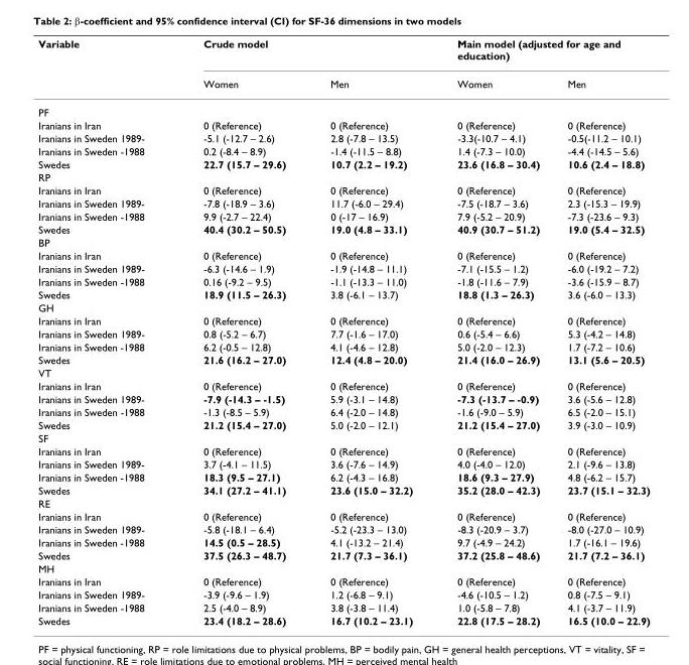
<table><thead><tr><td rowspan="2">Variable</td><td colspan="2">Crude model</td><td colspan="2">Main model (adjusted for age and education)</td></tr><tr><td>Women</td><td>Men</td><td>Women</td><td>Men</td></tr></thead><tbody><tr><td colspan="5">PF</td></tr><tr><td>Iranians in Iran</td><td>0 (Reference)</td><td>0 (Reference)</td><td>0 (Reference)</td><td>0 (Reference)</td></tr><tr><td>Iranians in Sweden 1989-</td><td>-5.1 (-12.7 – 2.6)</td><td>2.8 (-7.8 – 13.5)</td><td>-3.3(-10.7 – 4.1)</td><td>-0.5(-11.2 – 10.1)</td></tr><tr><td>Iranians in Sweden -1988</td><td>0.2 (-8.4 – 8.9)</td><td>-1.4 (-11.5 – 8.8)</td><td>1.4 (-7.3 – 10.0)</td><td>-4.4 (-14.5 – 5.6)</td></tr><tr><td>Swedes</td><td>22.7 (15.7 – 29.6)</td><td>10.7 (2.2 – 19.2)</td><td>23.6 (16.8 – 30.4)</td><td>10.6 (2.4 – 18.8)</td></tr><tr><td colspan="5">RP</td></tr><tr><td>Iranians in Iran</td><td>0 (Reference)</td><td>0 (Reference)</td><td>0 (Reference)</td><td>0 (Reference)</td></tr><tr><td>Iranians in Sweden 1989-</td><td>-7.8 (-18.9 – 3.6)</td><td>11.7 (-6.0 – 29.4)</td><td>-7.5 (-18.7 – 3.6)</td><td>2.3 (-15.3 – 19.9)</td></tr><tr><td>Iranians in Sweden -1988</td><td>9.9 (-2.7 – 22.4)</td><td>0 (-17 – 16.9)</td><td>7.9 (-5.2 – 20.9)</td><td>-7.3 (-23.6 – 9.3)</td></tr><tr><td>Swedes</td><td>40.4 (30.2 – 50.5)</td><td>19.0 (4.8 – 33.1)</td><td>40.9 (30.7 – 51.2)</td><td>19.0 (5.4 – 32.5)</td></tr><tr><td colspan="5">BP</td></tr><tr><td>Iranians in Iran</td><td>0 (Reference)</td><td>0 (Reference)</td><td>0 (Reference)</td><td>0 (Reference)</td></tr><tr><td>Iranians in Sweden 1989-</td><td>-6.3 (-14.6 – 1.9)</td><td>-1.9 (-14.8 – 11.1)</td><td>-7.1 (-15.5 – 1.2)</td><td>-6.0 (-19.2 – 7.2)</td></tr><tr><td>Iranians in Sweden -1988</td><td>0.16 (-9.2 – 9.5)</td><td>-1.1 (-13.3 – 11.0)</td><td>-1.8 (-11.6 – 7.9)</td><td>-3.6 (-15.9 – 8.7)</td></tr><tr><td>Swedes</td><td>18.9 (11.5 – 26.3)</td><td>3.8 (-6.1 – 13.7)</td><td>18.8 (1.3 – 26.3)</td><td>3.6 (-6.0 – 13.3)</td></tr><tr><td colspan="5">GH</td></tr><tr><td>Iranians in Iran</td><td>0 (Reference)</td><td>0 (Reference)</td><td>0 (Reference)</td><td>0 (Reference)</td></tr><tr><td>Iranians in Sweden 1989-</td><td>0.8 (-5.2 – 6.7)</td><td>7.7 (-1.6 – 17.0)</td><td>0.6 (-5.4 – 6.6)</td><td>5.3 (-4.2 – 14.8)</td></tr><tr><td>Iranians in Sweden -1988</td><td>6.2 (-0.5 – 12.8)</td><td>4.1 (-4.6 – 12.8)</td><td>5.0 (-2.0 – 12.3)</td><td>1.7 (-7.2 – 10.6)</td></tr><tr><td>Swedes</td><td>21.6 (16.2 – 27.0)</td><td>12.4 (4.8 – 20.0)</td><td>21.4 (16.0 – 26.9)</td><td>13.1 (5.6 – 20.5)</td></tr><tr><td colspan="5">VT</td></tr><tr><td>Iranians in Iran</td><td>0 (Reference)</td><td>0 (Reference)</td><td>0 (Reference)</td><td>0 (Reference)</td></tr><tr><td>Iranians in Sweden 1989-</td><td>-7.9 (-14.3 – -1.5)</td><td>5.9 (-3.1 – 14.8)</td><td>-7.3 (-13.7 – -0.9)</td><td>3.6 (-5.6 – 12.8)</td></tr><tr><td>Iranians in Sweden -1988</td><td>-1.3 (-8.5 – 5.9)</td><td>6.4 (-2.0 – 14.8)</td><td>-1.6 (-9.0 – 5.9)</td><td>6.5 (-2.0 – 15.1)</td></tr><tr><td>Swedes</td><td>21.2 (15.4 – 27.0)</td><td>5.0 (-2.0 – 12.1)</td><td>21.2 (15.4 – 27.0)</td><td>3.9 (-3.0 – 10.9)</td></tr><tr><td colspan="5">SF</td></tr><tr><td>Iranians in Iran</td><td>0 (Reference)</td><td>0 (Reference)</td><td>0 (Reference)</td><td>0 (Reference)</td></tr><tr><td>Iranians in Sweden 1989-</td><td>3.7 (-4.1 – 11.5)</td><td>3.6 (-7.6 – 14.9)</td><td>4.0 (-4.0 – 12.0)</td><td>2.1 (-9.6 – 13.8)</td></tr><tr><td>Iranians in Sweden -1988</td><td>18.3 (9.5 – 27.1)</td><td>6.2 (-4.3 – 16.8)</td><td>18.6 (9.3 – 27.9)</td><td>4.8 (-6.2 – 15.7)</td></tr><tr><td>Swedes</td><td>34.1 (27.2 – 41.1)</td><td>23.6 (15.0 – 32.2)</td><td>35.2 (28.0 – 42.3)</td><td>23.7 (15.1 – 32.3)</td></tr><tr><td colspan="5">RE</td></tr><tr><td>Iranians in Iran</td><td>0 (Reference)</td><td>0 (Reference)</td><td>0 (Reference)</td><td>0 (Reference)</td></tr><tr><td>Iranians in Sweden 1989-</td><td>-5.8 (-18.1 – 6.4)</td><td>-5.2 (-23.3 – 13.0)</td><td>-8.3 (-20.9 – 3.7)</td><td>-8.0 (-27.0 – 10.9)</td></tr><tr><td>Iranians in Sweden -1988</td><td>14.5 (0.5 – 28.5)</td><td>4.1 (-13.2 – 21.4)</td><td>9.7 (-4.9 – 24.2)</td><td>1.7 (-16.1 – 19.6)</td></tr><tr><td>Swedes</td><td>37.5 (26.3 – 48.7)</td><td>21.7 (7.3 – 36.1)</td><td>37.2 (25.8 – 48.6)</td><td>21.7 (7.2 – 36.1)</td></tr><tr><td colspan="5">MH</td></tr><tr><td>Iranians in Iran</td><td>0 (Reference)</td><td>0 (Reference)</td><td>0 (Reference)</td><td>0 (Reference)</td></tr><tr><td>Iranians in Sweden 1989-</td><td>-3.9 (-9.6 – 1.9)</td><td>1.2 (-6.8 – 9.1)</td><td>-4.6 (-10.5 – 1.2)</td><td>0.8 (-7.5 – 9.1)</td></tr><tr><td>Iranians in Sweden -1988</td><td>2.5 (-4.0 – 8.9)</td><td>3.8 (-3.8 – 11.4)</td><td>1.0 (-5.8 – 7.8)</td><td>4.1 (-3.7 – 11.9)</td></tr><tr><td>Swedes</td><td>23.4 (18.2 – 28.6)</td><td>16.7 (10.2 – 23.1)</td><td>22.8 (17.5 – 28.2)</td><td>16.5 (10.0 – 22.9)</td></tr></tbody></table>